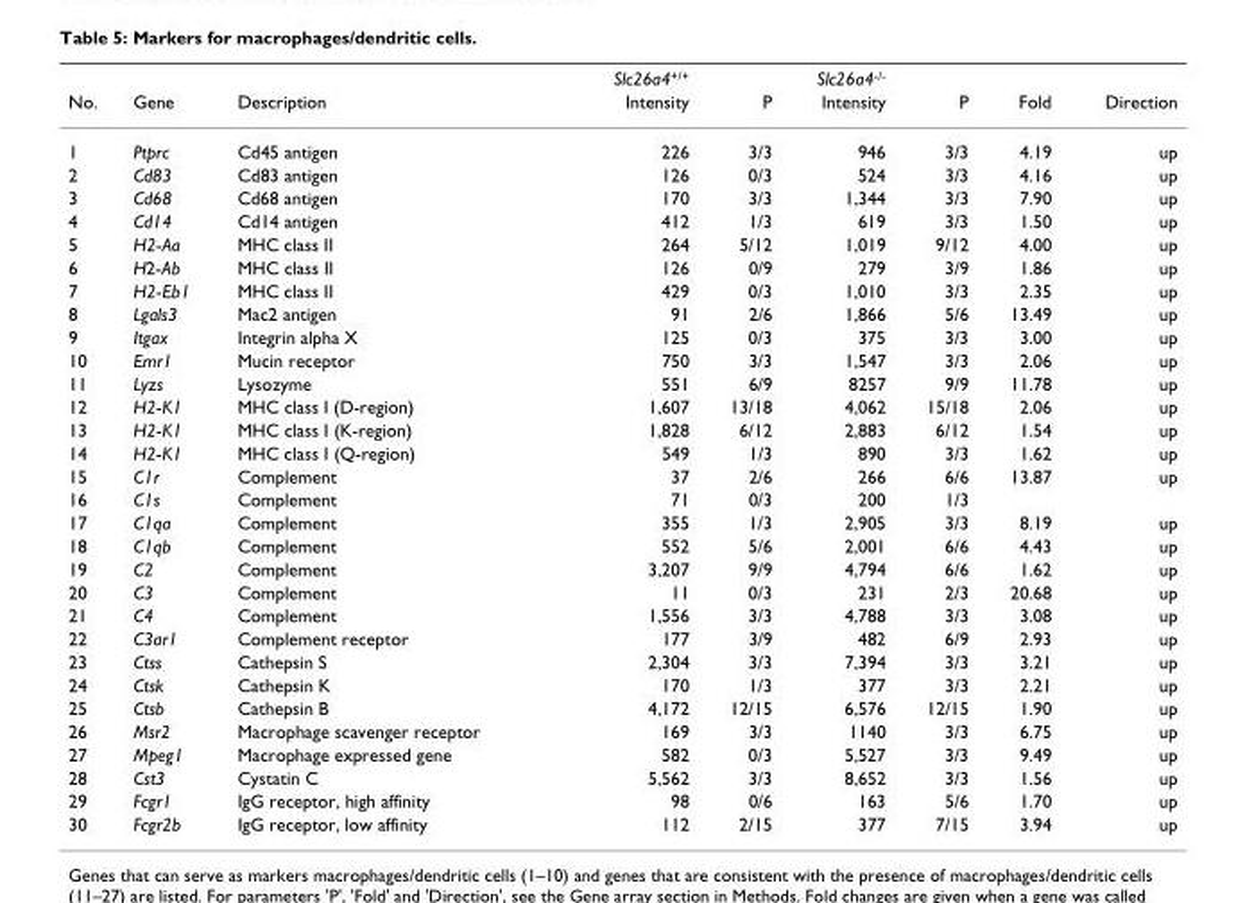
<table><thead><tr><td rowspan="2">No.</td><td rowspan="2">Gene</td><td rowspan="2">Description</td><td colspan="2">Slc26a4<sup>+/+</sup></td><td colspan="2">Slc26a4<sup>-/-</sup></td><td rowspan="2">Fold</td><td rowspan="2">Direction</td></tr><tr><td>Intensity</td><td>P</td><td>Intensity</td><td>P</td></tr></thead><tbody><tr><td>1</td><td>Ptprc</td><td>Cd45 antigen</td><td>226</td><td>3/3</td><td>946</td><td>3/3</td><td>4.19</td><td>up</td></tr><tr><td>2</td><td>Cd83</td><td>Cd83 antigen</td><td>126</td><td>0/3</td><td>524</td><td>3/3</td><td>4.16</td><td>up</td></tr><tr><td>3</td><td>Cd68</td><td>Cd68 antigen</td><td>170</td><td>3/3</td><td>1,344</td><td>3/3</td><td>7.90</td><td>up</td></tr><tr><td>4</td><td>Cd14</td><td>Cd14 antigen</td><td>412</td><td>1/3</td><td>619</td><td>3/3</td><td>1.50</td><td>up</td></tr><tr><td>5</td><td>H2-Aa</td><td>MHC class II</td><td>264</td><td>5/12</td><td>1,019</td><td>9/12</td><td>4.00</td><td>up</td></tr><tr><td>6</td><td>H2-Ab</td><td>MHC class II</td><td>126</td><td>0/9</td><td>279</td><td>3/9</td><td>1.86</td><td>up</td></tr><tr><td>7</td><td>H2-Eb1</td><td>MHC class II</td><td>429</td><td>0/3</td><td>1,010</td><td>3/3</td><td>2.35</td><td>up</td></tr><tr><td>8</td><td>Lgals3</td><td>Mac2 antigen</td><td>91</td><td>2/6</td><td>1,866</td><td>5/6</td><td>13.49</td><td>up</td></tr><tr><td>9</td><td>Itgax</td><td>Integrin alpha X</td><td>125</td><td>0/3</td><td>375</td><td>3/3</td><td>3.00</td><td>up</td></tr><tr><td>10</td><td>Emr1</td><td>Mucin receptor</td><td>750</td><td>3/3</td><td>1,547</td><td>3/3</td><td>2.06</td><td>up</td></tr><tr><td>11</td><td>Lyzs</td><td>Lysozyme</td><td>551</td><td>6/9</td><td>8257</td><td>9/9</td><td>11.78</td><td>up</td></tr><tr><td>12</td><td>H2-K1</td><td>MHC class I (D-region)</td><td>1,607</td><td>13/18</td><td>4,062</td><td>15/18</td><td>2.06</td><td>up</td></tr><tr><td>13</td><td>H2-K1</td><td>MHC class I (K-region)</td><td>1,828</td><td>6/12</td><td>2,883</td><td>6/12</td><td>1.54</td><td>up</td></tr><tr><td>14</td><td>H2-K1</td><td>MHC class I (Q-region)</td><td>549</td><td>1/3</td><td>890</td><td>3/3</td><td>1.62</td><td>up</td></tr><tr><td>15</td><td>C1r</td><td>Complement</td><td>37</td><td>2/6</td><td>266</td><td>6/6</td><td>13.87</td><td>up</td></tr><tr><td>16</td><td>C1s</td><td>Complement</td><td>71</td><td>0/3</td><td>200</td><td>1/3</td><td></td><td></td></tr><tr><td>17</td><td>C1qa</td><td>Complement</td><td>355</td><td>1/3</td><td>2,905</td><td>3/3</td><td>8.19</td><td>up</td></tr><tr><td>18</td><td>C1qb</td><td>Complement</td><td>552</td><td>5/6</td><td>2,001</td><td>6/6</td><td>4.43</td><td>up</td></tr><tr><td>19</td><td>C2</td><td>Complement</td><td>3,207</td><td>9/9</td><td>4,794</td><td>6/6</td><td>1.62</td><td>up</td></tr><tr><td>20</td><td>C3</td><td>Complement</td><td>11</td><td>0/3</td><td>231</td><td>2/3</td><td>20.68</td><td>up</td></tr><tr><td>21</td><td>C4</td><td>Complement</td><td>1,556</td><td>3/3</td><td>4,788</td><td>3/3</td><td>3.08</td><td>up</td></tr><tr><td>22</td><td>C3ar1</td><td>Complement receptor</td><td>177</td><td>3/9</td><td>482</td><td>6/9</td><td>2.93</td><td>up</td></tr><tr><td>23</td><td>Ctss</td><td>Cathepsin S</td><td>2,304</td><td>3/3</td><td>7,394</td><td>3/3</td><td>3.21</td><td>up</td></tr><tr><td>24</td><td>Ctsk</td><td>Cathepsin K</td><td>170</td><td>1/3</td><td>377</td><td>3/3</td><td>2.21</td><td>up</td></tr><tr><td>25</td><td>Ctsb</td><td>Cathepsin B</td><td>4,172</td><td>12/15</td><td>6,576</td><td>12/15</td><td>1.90</td><td>up</td></tr><tr><td>26</td><td>Msr2</td><td>Macrophage scavenger receptor</td><td>169</td><td>3/3</td><td>1140</td><td>3/3</td><td>6.75</td><td>up</td></tr><tr><td>27</td><td>Mpeg1</td><td>Macrophage expressed gene</td><td>582</td><td>0/3</td><td>5,527</td><td>3/3</td><td>9.49</td><td>up</td></tr><tr><td>28</td><td>Cst3</td><td>Cystatin C</td><td>5,562</td><td>3/3</td><td>8,652</td><td>3/3</td><td>1.56</td><td>up</td></tr><tr><td>29</td><td>Fcgr1</td><td>IgG receptor, high affinity</td><td>98</td><td>0/6</td><td>163</td><td>5/6</td><td>1.70</td><td>up</td></tr><tr><td>30</td><td>Fcgr2b</td><td>IgG receptor, low affinity</td><td>112</td><td>2/15</td><td>377</td><td>7/15</td><td>3.94</td><td>up</td></tr></tbody></table>